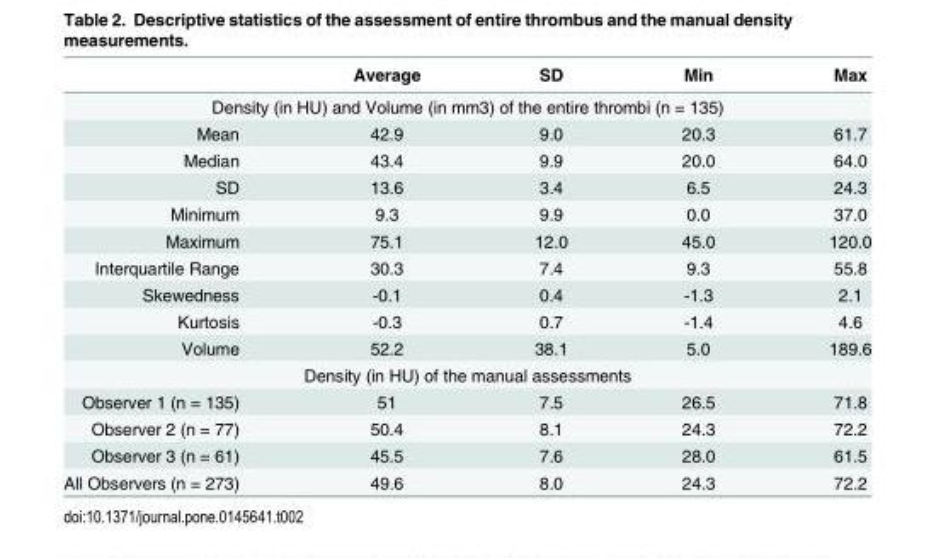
<table><thead><tr><td></td><td>Average</td><td>SD</td><td>Min</td><td>Max</td></tr></thead><tbody><tr><td colspan="5">Density (in HU) and Volume (in mm3) of the entire thrombi (n = 135)</td></tr><tr><td>Mean</td><td>42.9</td><td>9.0</td><td>20.3</td><td>61.7</td></tr><tr><td>Median</td><td>43.4</td><td>9.9</td><td>20.0</td><td>64.0</td></tr><tr><td>SD</td><td>13.6</td><td>3.4</td><td>6.5</td><td>24.3</td></tr><tr><td>Minimum</td><td>9.3</td><td>9.9</td><td>0.0</td><td>37.0</td></tr><tr><td>Maximum</td><td>75.1</td><td>12.0</td><td>45.0</td><td>120.0</td></tr><tr><td>Interquartile Range</td><td>30.3</td><td>7.4</td><td>9.3</td><td>55.8</td></tr><tr><td>Skewedness</td><td>-0.1</td><td>0.4</td><td>-1.3</td><td>2.1</td></tr><tr><td>Kurtosis</td><td>-0.3</td><td>0.7</td><td>-1.4</td><td>4.6</td></tr><tr><td>Volume</td><td>52.2</td><td>38.1</td><td>5.0</td><td>189.6</td></tr><tr><td colspan="5">Density (in HU) of the manual assessments</td></tr><tr><td>Observer 1 (n = 135)</td><td>51</td><td>7.5</td><td>26.5</td><td>71.8</td></tr><tr><td>Observer 2 (n = 77)</td><td>50.4</td><td>8.1</td><td>24.3</td><td>72.2</td></tr><tr><td>Observer 3 (n = 61)</td><td>45.5</td><td>7.6</td><td>28.0</td><td>61.5</td></tr><tr><td>All Observers (n = 273)</td><td>49.6</td><td>8.0</td><td>24.3</td><td>72.2</td></tr></tbody></table>